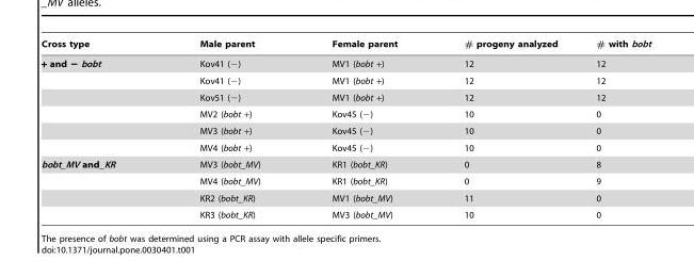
<table><thead><tr><td>Cross type</td><td>Male parent</td><td>Female parent</td><td># progeny analyzed</td><td># with bobt</td></tr></thead><tbody><tr><td rowspan="6">+ and − bobt</td><td>Kov41 (−)</td><td>MV1 (bobt +)</td><td>12</td><td>12</td></tr><tr><td>Kov41 (−)</td><td>MV1 (bobt +)</td><td>12</td><td>12</td></tr><tr><td>Kov51 (−)</td><td>MV1 (bobt +)</td><td>12</td><td>12</td></tr><tr><td>MV2 (bobt +)</td><td>Kov45 (−)</td><td>10</td><td>0</td></tr><tr><td>MV3 (bobt +)</td><td>Kov45 (−)</td><td>10</td><td>0</td></tr><tr><td>MV4 (bobt +)</td><td>Kov45 (−)</td><td>10</td><td>0</td></tr><tr><td rowspan="4">bobt_MV and_KR</td><td>MV3 (bobt_MV)</td><td>KR1 (bobt_KR)</td><td>0</td><td>8</td></tr><tr><td>MV4 (bobt_MV)</td><td>KR1 (bobt_KR)</td><td>0</td><td>9</td></tr><tr><td>KR2 (bobt_KR)</td><td>MV1 (bobt_MV)</td><td>11</td><td>0</td></tr><tr><td>KR3 (bobt_KR)</td><td>MV3 (bobt_MV)</td><td>10</td><td>0</td></tr></tbody></table>